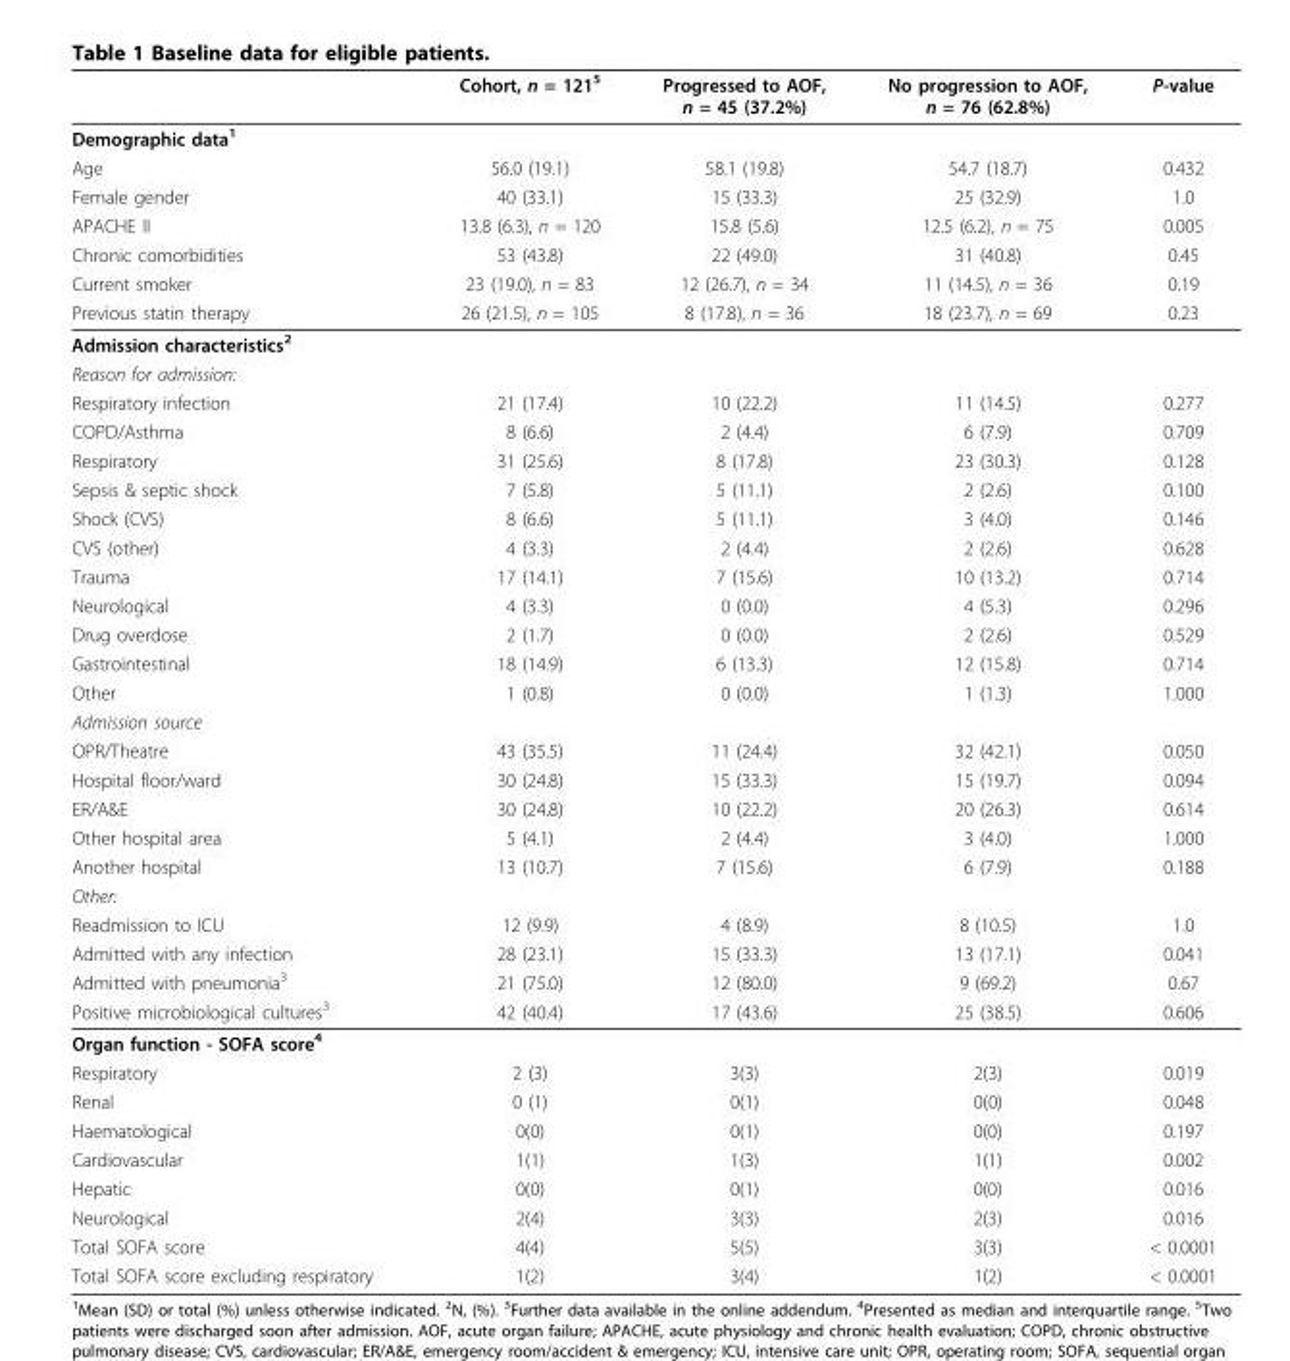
<table><thead><tr><td></td><td>Cohort, n = 121<sup>5</sup></td><td>Progressed to AOF, n = 45 (37.2%)</td><td>No progression to AOF, n = 76 (62.8%)</td><td>P-value</td></tr></thead><tbody><tr><td colspan="5">Demographic data<sup>1</sup></td></tr><tr><td>Age</td><td>56.0 (19.1)</td><td>58.1 (19.8)</td><td>54.7 (18.7)</td><td>0.432</td></tr><tr><td>Female gender</td><td>40 (33.1)</td><td>15 (33.3)</td><td>25 (32.9)</td><td>1.0</td></tr><tr><td>APACHE II</td><td>13.8 (6.3), n = 120</td><td>15.8 (5.6)</td><td>12.5 (6.2), n = 75</td><td>0.005</td></tr><tr><td>Chronic comorbidities</td><td>53 (43.8)</td><td>22 (49.0)</td><td>31 (40.8)</td><td>0.45</td></tr><tr><td>Current smoker</td><td>23 (19.0), n = 83</td><td>12 (26.7), n = 34</td><td>11 (14.5), n = 36</td><td>0.19</td></tr><tr><td>Previous statin therapy</td><td>26 (21.5), n = 105</td><td>8 (17.8), n = 36</td><td>18 (23.7), n = 69</td><td>0.23</td></tr><tr><td colspan="5">Admission characteristics<sup>2</sup></td></tr><tr><td colspan="5">Reason for admission:</td></tr><tr><td>Respiratory infection</td><td>21 (17.4)</td><td>10 (22.2)</td><td>11 (14.5)</td><td>0.277</td></tr><tr><td>COPD/Asthma</td><td>8 (6.6)</td><td>2 (4.4)</td><td>6 (7.9)</td><td>0.709</td></tr><tr><td>Respiratory</td><td>31 (25.6)</td><td>8 (17.8)</td><td>23 (30.3)</td><td>0.128</td></tr><tr><td>Sepsis &amp; septic shock</td><td>7 (5.8)</td><td>5 (11.1)</td><td>2 (2.6)</td><td>0.100</td></tr><tr><td>Shock (CVS)</td><td>8 (6.6)</td><td>5 (11.1)</td><td>3 (4.0)</td><td>0.146</td></tr><tr><td>CVS (other)</td><td>4 (3.3)</td><td>2 (4.4)</td><td>2 (2.6)</td><td>0.628</td></tr><tr><td>Trauma</td><td>17 (14.1)</td><td>7 (15.6)</td><td>10 (13.2)</td><td>0.714</td></tr><tr><td>Neurological</td><td>4 (3.3)</td><td>0 (0.0)</td><td>4 (5.3)</td><td>0.296</td></tr><tr><td>Drug overdose</td><td>2 (1.7)</td><td>0 (0.0)</td><td>2 (2.6)</td><td>0.529</td></tr><tr><td>Gastrointestinal</td><td>18 (14.9)</td><td>6 (13.3)</td><td>12 (15.8)</td><td>0.714</td></tr><tr><td>Other</td><td>1 (0.8)</td><td>0 (0.0)</td><td>1 (1.3)</td><td>1.000</td></tr><tr><td colspan="5">Admission source</td></tr><tr><td>OPR/Theatre</td><td>43 (35.5)</td><td>11 (24.4)</td><td>32 (42.1)</td><td>0.050</td></tr><tr><td>Hospital floor/ward</td><td>30 (24.8)</td><td>15 (33.3)</td><td>15 (19.7)</td><td>0.094</td></tr><tr><td>ER/A&amp;E</td><td>30 (24.8)</td><td>10 (22.2)</td><td>20 (26.3)</td><td>0.614</td></tr><tr><td>Other hospital area</td><td>5 (4.1)</td><td>2 (4.4)</td><td>3 (4.0)</td><td>1.000</td></tr><tr><td>Another hospital</td><td>13 (10.7)</td><td>7 (15.6)</td><td>6 (7.9)</td><td>0.188</td></tr><tr><td colspan="5">Other:</td></tr><tr><td>Readmission to ICU</td><td>12 (9.9)</td><td>4 (8.9)</td><td>8 (10.5)</td><td>1.0</td></tr><tr><td>Admitted with any infection</td><td>28 (23.1)</td><td>15 (33.3)</td><td>13 (17.1)</td><td>0.041</td></tr><tr><td>Admitted with pneumonia<sup>3</sup></td><td>21 (75.0)</td><td>12 (80.0)</td><td>9 (69.2)</td><td>0.67</td></tr><tr><td>Positive microbiological cultures<sup>3</sup></td><td>42 (40.4)</td><td>17 (43.6)</td><td>25 (38.5)</td><td>0.606</td></tr><tr><td colspan="5">Organ function - SOFA score<sup>4</sup></td></tr><tr><td>Respiratory</td><td>2 (3)</td><td>3(3)</td><td>2(3)</td><td>0.019</td></tr><tr><td>Renal</td><td>0 (1)</td><td>0(1)</td><td>0(0)</td><td>0.048</td></tr><tr><td>Haematological</td><td>0(0)</td><td>0(1)</td><td>0(0)</td><td>0.197</td></tr><tr><td>Cardiovascular</td><td>1(1)</td><td>1(3)</td><td>1(1)</td><td>0.002</td></tr><tr><td>Hepatic</td><td>0(0)</td><td>0(1)</td><td>0(0)</td><td>0.016</td></tr><tr><td>Neurological</td><td>2(4)</td><td>3(3)</td><td>2(3)</td><td>0.016</td></tr><tr><td>Total SOFA score</td><td>4(4)</td><td>5(5)</td><td>3(3)</td><td>&lt; 0.0001</td></tr><tr><td>Total SOFA score excluding respiratory</td><td>1(2)</td><td>3(4)</td><td>1(2)</td><td>&lt; 0.0001</td></tr></tbody></table>